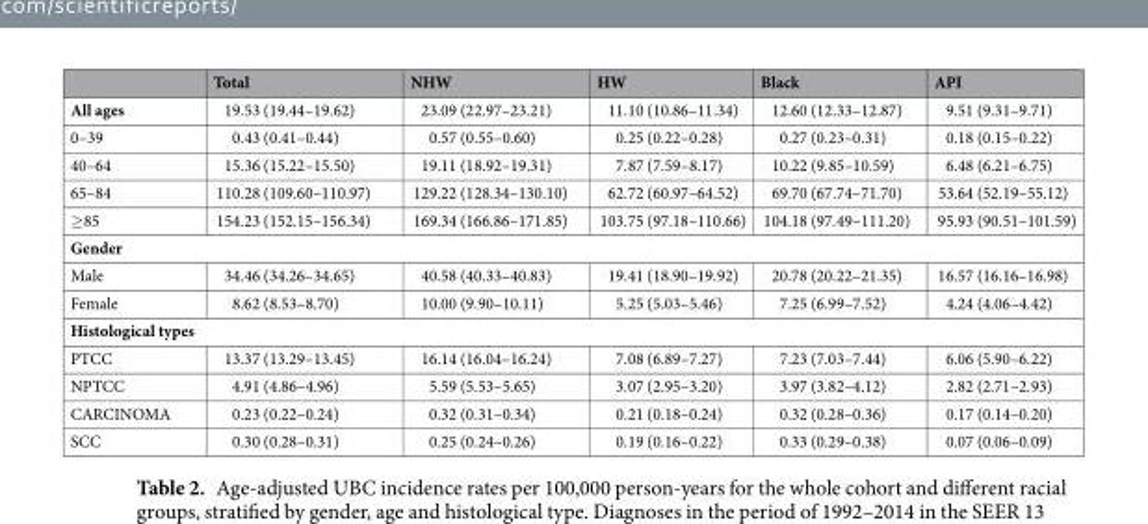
<table><thead><tr><td></td><td>Total</td><td>NHW</td><td>HW</td><td>Black</td><td>API</td></tr></thead><tbody><tr><td>All ages</td><td>19.53 (19.44–19.62)</td><td>23.09 (22.97–23.21)</td><td>11.10 (10.86–11.34)</td><td>12.60 (12.33–12.87)</td><td>9.51 (9.31–9.71)</td></tr><tr><td>0–39</td><td>0.43 (0.41–0.44)</td><td>0.57 (0.55–0.60)</td><td>0.25 (0.22–0.28)</td><td>0.27 (0.23–0.31)</td><td>0.18 (0.15–0.22)</td></tr><tr><td>40–64</td><td>15.36 (15.22–15.50)</td><td>19.11 (18.92–19.31)</td><td>7.87 (7.59–8.17)</td><td>10.22 (9.85–10.59)</td><td>6.48 (6.21–6.75)</td></tr><tr><td>65–84</td><td>110.28 (109.60–110.97)</td><td>129.22 (128.34–130.10)</td><td>62.72 (60.97–64.52)</td><td>69.70 (67.74–71.70)</td><td>53.64 (52.19–55.12)</td></tr><tr><td>≥85</td><td>154.23 (152.15–156.34)</td><td>169.34 (166.86–171.85)</td><td>103.75 (97.18–110.66)</td><td>104.18 (97.49–111.20)</td><td>95.93 (90.51–101.59)</td></tr><tr><td colspan="6">Gender</td></tr><tr><td>Male</td><td>34.46 (34.26–34.65)</td><td>40.58 (40.33–40.83)</td><td>19.41 (18.90–19.92)</td><td>20.78 (20.22–21.35)</td><td>16.57 (16.16–16.98)</td></tr><tr><td>Female</td><td>8.62 (8.53–8.70)</td><td>10.00 (9.90–10.11)</td><td>5.25 (5.03–5.46)</td><td>7.25 (6.99–7.52)</td><td>4.24 (4.06–4.42)</td></tr><tr><td colspan="6">Histological types</td></tr><tr><td>PTCC</td><td>13.37 (13.29–13.45)</td><td>16.14 (16.04–16.24)</td><td>7.08 (6.89–7.27)</td><td>7.23 (7.03–7.44)</td><td>6.06 (5.90–6.22)</td></tr><tr><td>NPTCC</td><td>4.91 (4.86–4.96)</td><td>5.59 (5.53–5.65)</td><td>3.07 (2.95–3.20)</td><td>3.97 (3.82–4.12)</td><td>2.82 (2.71–2.93)</td></tr><tr><td>CARCINOMA</td><td>0.23 (0.22–0.24)</td><td>0.32 (0.31–0.34)</td><td>0.21 (0.18–0.24)</td><td>0.32 (0.28–0.36)</td><td>0.17 (0.14–0.20)</td></tr><tr><td>SCC</td><td>0.30 (0.28–0.31)</td><td>0.25 (0.24–0.26)</td><td>0.19 (0.16–0.22)</td><td>0.33 (0.29–0.38)</td><td>0.07 (0.06–0.09)</td></tr></tbody></table>